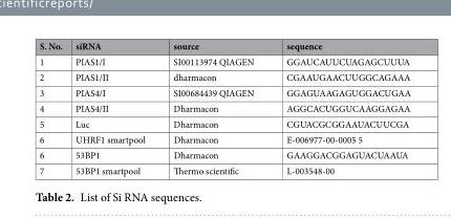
<table><thead><tr><td>S. No.</td><td>siRNA</td><td>source</td><td>sequence</td></tr></thead><tbody><tr><td>1</td><td>PIAS1/I</td><td>SI00113974 QIAGEN</td><td>GGAUCAUUCUAGAGCUUUA</td></tr><tr><td>2</td><td>PIAS1/II</td><td>dharmacon</td><td>CGAAUGAACUUGGCAGAAA</td></tr><tr><td>3</td><td>PIAS4/I</td><td>SI00684439 QIAGEN</td><td>GGAGUAAGAGUGGACUGAA</td></tr><tr><td>4</td><td>PIAS4/II</td><td>Dharmacon</td><td>AGGCACUGGUCAAGGAGAA</td></tr><tr><td>5</td><td>Luc</td><td>Dharmacon</td><td>CGUACGCGGAAUACUUCGA</td></tr><tr><td>6</td><td>UHRF1 smartpool</td><td>Dharmacon</td><td>E-006977-00-0005 5</td></tr><tr><td>6</td><td>53BP1</td><td>Dharmacon</td><td>GAAGGACGGAGUACUAAUA</td></tr><tr><td>7</td><td>53BP1 smartpool</td><td>Thermo scientific</td><td>L-003548-00</td></tr></tbody></table>